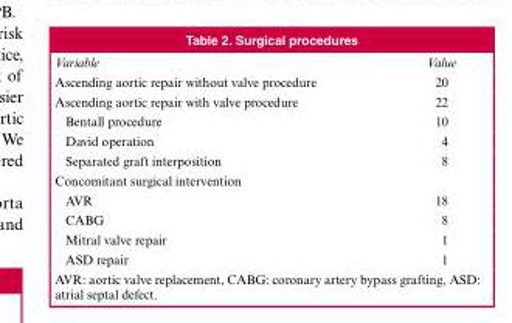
<table><thead><tr><td>Variable</td><td>Value</td></tr></thead><tbody><tr><td>Ascending aortic repair without valve procedure</td><td>20</td></tr><tr><td>Ascending aortic repair with valve procedure</td><td>22</td></tr><tr><td>Bentall procedure</td><td>10</td></tr><tr><td>David operation</td><td>4</td></tr><tr><td>Separated graft interposition</td><td>8</td></tr><tr><td colspan="2">Concomitant surgical intervention</td></tr><tr><td>AVR</td><td>18</td></tr><tr><td>CABG</td><td>8</td></tr><tr><td>Mitral valve repair</td><td>1</td></tr><tr><td>ASD repair</td><td>1</td></tr></tbody></table>